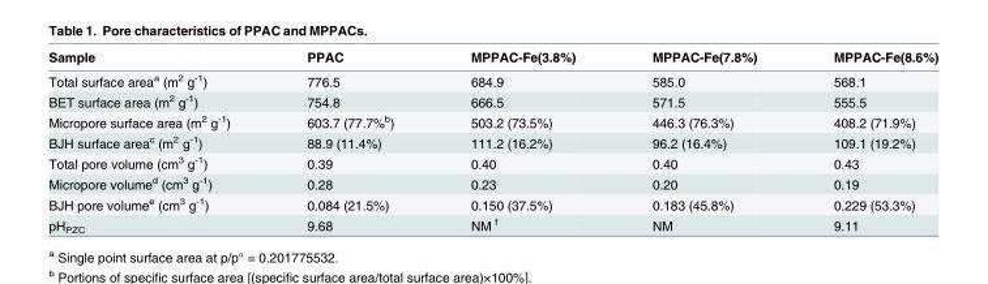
<table><thead><tr><td>Sample</td><td>PPAC</td><td>MPPAC-Fe(3.8%)</td><td>MPPAC-Fe(7.8%)</td><td>MPPAC-Fe(8.6%)</td></tr></thead><tbody><tr><td>Total surface area<sup>a</sup> (m<sup>2</sup> g<sup>-1</sup>)</td><td>776.5</td><td>684.9</td><td>585.0</td><td>568.1</td></tr><tr><td>BET surface area (m<sup>2</sup> g<sup>-1</sup>)</td><td>754.8</td><td>666.5</td><td>571.5</td><td>555.5</td></tr><tr><td>Micropore surface area (m<sup>2</sup> g<sup>-1</sup>)</td><td>603.7 (77.7%<sup>b</sup>)</td><td>503.2 (73.5%)</td><td>446.3 (76.3%)</td><td>408.2 (71.9%)</td></tr><tr><td>BJH surface area<sup>c</sup> (m<sup>2</sup> g<sup>-1</sup>)</td><td>88.9 (11.4%)</td><td>111.2 (16.2%)</td><td>96.2 (16.4%)</td><td>109.1 (19.2%)</td></tr><tr><td>Total pore volume (cm<sup>3</sup> g<sup>-1</sup>)</td><td>0.39</td><td>0.40</td><td>0.40</td><td>0.43</td></tr><tr><td>Micropore volume<sup>d</sup> (cm<sup>3</sup> g<sup>-1</sup>)</td><td>0.28</td><td>0.23</td><td>0.20</td><td>0.19</td></tr><tr><td>BJH pore volume<sup>e</sup> (cm<sup>3</sup> g<sup>-1</sup>)</td><td>0.084 (21.5%)</td><td>0.150 (37.5%)</td><td>0.183 (45.8%)</td><td>0.229 (53.3%)</td></tr><tr><td>pH<sub>PZC</sub></td><td>9.68</td><td>NM <sup>f</sup></td><td>NM</td><td>9.11</td></tr></tbody></table>